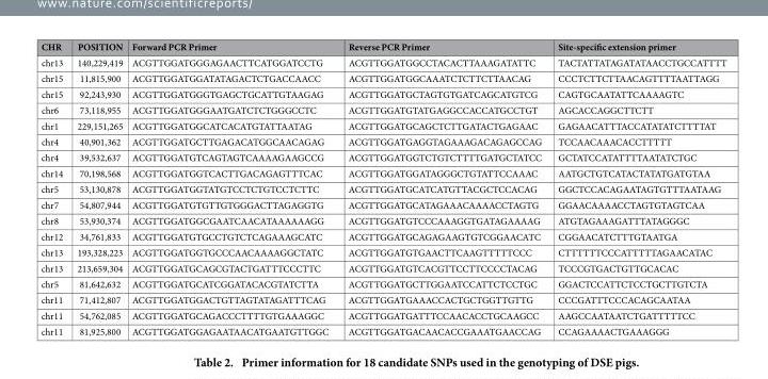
<table><thead><tr><td>CHR</td><td>POSITION</td><td>Forward PCR Primer</td><td>Reverse PCR Primer</td><td>Site-specific extension primer</td></tr></thead><tbody><tr><td>chr13</td><td>140,229,419</td><td>ACGTTGGATGGGAGAACTTCATGGATCCTG</td><td>ACGTTGGATGGCCTACACTTAAAGATATTC</td><td>TACTATTATAGATATAACCTGCCATTTT</td></tr><tr><td>chr15</td><td>11,815,900</td><td>ACGTTGGATGGATATAGACTCTGACCAACC</td><td>ACGTTGGATGGCAAATCTCTTCTTAACAG</td><td>CCCTCTTCTTAACAGTTTTAATTAGG</td></tr><tr><td>chr15</td><td>92,243,930</td><td>ACGTTGGATGGGTGAGCTGCATTGTAAGAG</td><td>ACGTTGGATGCTAGTGTGATCAGCATGTCG</td><td>CAGTGCAATATTCAAAAGTC</td></tr><tr><td>chr6</td><td>73,118,955</td><td>ACGTTGGATGGGAATGATCTCTGGGCCTC</td><td>ACGTTGGATGTATGAGGCCACCATGCCTGT</td><td>AGCACCAGGCTTCTT</td></tr><tr><td>chr1</td><td>229,151,265</td><td>ACGTTGGATGGCATCACATGTATTAATAG</td><td>ACGTTGGATGCAGCTCTTGATACTGAGAAC</td><td>GAGAACATTTACCATATATCTTTTAT</td></tr><tr><td>chr4</td><td>40,901,362</td><td>ACGTTGGATGCTTGAGACATGGCAACAGAG</td><td>ACGTTGGATGAGGTAGAAAGACAGAGCCAG</td><td>TCCAACAAACACCTTTTT</td></tr><tr><td>chr4</td><td>39,532,637</td><td>ACGTTGGATGTCAGTAGTCAAAAGAAGCCG</td><td>ACGTTGGATGGTCTGTCTTTTGATGCTATCC</td><td>GCTATCCATATTTTAATATCTGC</td></tr><tr><td>chr14</td><td>70,198,568</td><td>ACGTTGGATGGTCACTTGACAGAGTTTCAC</td><td>ACGTTGGATGGATAGGGCTGTATTCCAAAC</td><td>AATGCTGTCATACTATATGATGTAA</td></tr><tr><td>chr5</td><td>53,130,878</td><td>ACGTTGGATGGTATGTCCTCTGTCCTCTTC</td><td>ACGTTGGATGCATCATGTTACGCTCCACAG</td><td>GGCTCCACAGAATAGTGTTTAATAAG</td></tr><tr><td>chr7</td><td>54,807,944</td><td>ACGTTGGATGTGTTGTGGGACTTAGAGGTG</td><td>ACGTTGGATGCATAGAAACAAAACCTAGTG</td><td>GGAACAAAACCTAGTGTAGTCAA</td></tr><tr><td>chr8</td><td>53,930,374</td><td>ACGTTGGATGGCGAATCAACATAAAAAAGG</td><td>ACGTTGGATGTCCCAAAGGTGATAGAAAAG</td><td>ATGTAGAAAGATTTATAGGGC</td></tr><tr><td>chr12</td><td>34,761,833</td><td>ACGTTGGATGTGCCTGTCTCAGAAAGCATC</td><td>ACGTTGGATGCAGAGAAGTGTCGGAACATC</td><td>CGGAACATCTTTGTAATGA</td></tr><tr><td>chr13</td><td>193,328,223</td><td>ACGTTGGATGGTGCCCAACAAAAGGCTATC</td><td>ACGTTGGATGTGAACTTCAAGTTTTTCCC</td><td>CTTTTTTCCCATTTTTAGAACATAC</td></tr><tr><td>chr13</td><td>213,659,304</td><td>ACGTTGGATGCAGCGTACTGATTTCCCTTC</td><td>ACGTTGGATGTCACGTTCCTTCCCCTACAG</td><td>TCCCGTGACTGTTGCACAC</td></tr><tr><td>chr5</td><td>81,642,632</td><td>ACGTTGGATGCATCGGATACACGTATCTTA</td><td>ACGTTGGATGCTTGGAATCCATTCTCCTGC</td><td>GGACTCCATTCTCCTGCTTGTCTA</td></tr><tr><td>chr11</td><td>71,412,807</td><td>ACGTTGGATGGACTGTTAGTATAGATTTCAG</td><td>ACGTTGGATGAAACCACTGCTGGTTGTTG</td><td>CCCGATTTCCCACAGCAATAA</td></tr><tr><td>chr11</td><td>54,762,085</td><td>ACGTTGGATGCAGACCCTTTTGTGAAAGGC</td><td>ACGTTGGATGATTTCCAACACCTGCAAGCC</td><td>AAGCCAATAATCTGATTTTTCC</td></tr><tr><td>chr11</td><td>81,925,800</td><td>ACGTTGGATGGAGAATAACATGAATGTTGGC</td><td>ACGTTGGATGACAACACCGAAATGAACCAG</td><td>CCAGAAAACTGAAAGGG</td></tr></tbody></table>